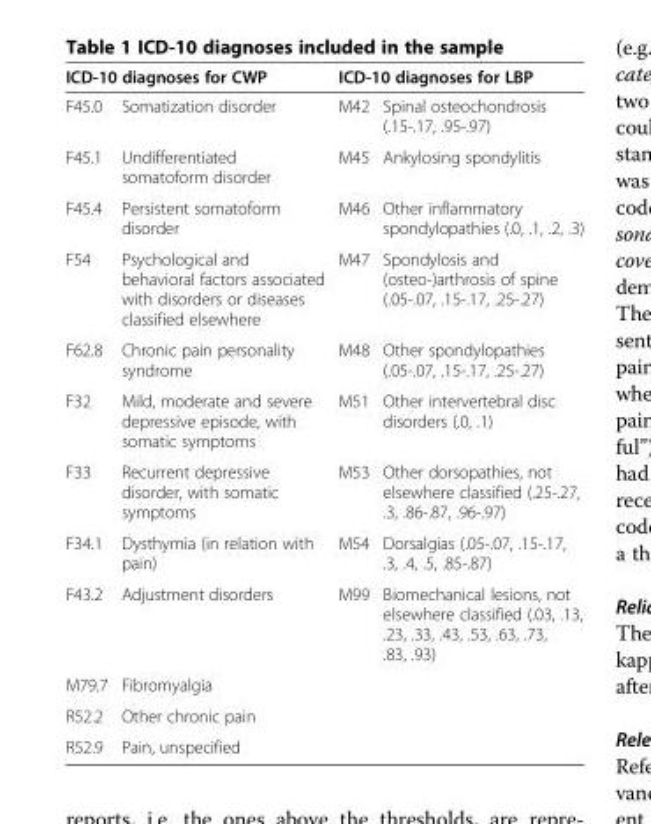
<table><thead><tr><td colspan="2">ICD-10 diagnoses for CWP</td><td colspan="2">ICD-10 diagnoses for LBP</td></tr><tr><td>F45.0</td><td>Somatization disorder</td><td>M42</td><td>Spinal osteochondrosis (.15-.17, .95-.97)</td></tr></thead><tbody><tr><td>F45.1</td><td>Undifferentiated somatoform disorder</td><td>M45</td><td>Ankylosing spondylitis</td></tr><tr><td>F45.4</td><td>Persistent somatoform disorder</td><td>M46</td><td>Other inflammatory spondylopathies (.0, .1, .2, .3)</td></tr><tr><td>F54</td><td>Psychological and behavioral factors associated with disorders or diseases classified elsewhere</td><td>M47</td><td>Spondylosis and (osteo-)arthrosis of spine (.05-.07, .15-.17, .25-.27)</td></tr><tr><td>F62.8</td><td>Chronic pain personality syndrome</td><td>M48</td><td>Other spondylopathies (.05-.07, .15-.17, .25-.27)</td></tr><tr><td>F32</td><td>Mild, moderate and severe depressive episode, with somatic symptoms</td><td>M51</td><td>Other intervertebral disc disorders (.0, .1)</td></tr><tr><td>F33</td><td>Recurrent depressive disorder, with somatic symptoms</td><td>M53</td><td>Other dorsopathies, not elsewhere classified (.25-.27, .3, .86-.87, .96-.97)</td></tr><tr><td>F34.1</td><td>Dysthymia (in relation with pain)</td><td>M54</td><td>Dorsalgias (.05-.07, .15-.17, .3, .4, .5, .85-.87)</td></tr><tr><td>F43.2</td><td>Adjustment disorders</td><td>M99</td><td>Biomechanical lesions, not elsewhere classified (.03, .13, .23, .33, .43, .53, .63, .73, .83, .93)</td></tr><tr><td>M79.7</td><td>Fibromyalgia</td><td></td><td></td></tr><tr><td>R52.2</td><td>Other chronic pain</td><td></td><td></td></tr><tr><td>R52.9</td><td>Pain, unspecified</td><td></td><td></td></tr></tbody></table>